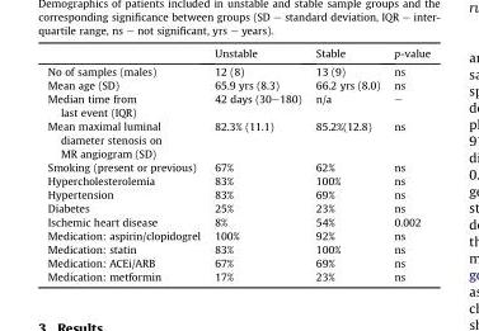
<table><thead><tr><td></td><td>Unstable</td><td>Stable</td><td>p-value</td></tr></thead><tbody><tr><td>No of samples (males)</td><td>12 (8)</td><td>13 (9)</td><td>ns</td></tr><tr><td>Mean age (SD)</td><td>65.9 yrs (8.3)</td><td>66.2 yrs (8.0)</td><td>ns</td></tr><tr><td>Median time from last event (IQR)</td><td>42 days (30–180)</td><td>n/a</td><td>–</td></tr><tr><td>Mean maximal luminal diameter stenosis on MR angiogram (SD)</td><td>82.3% (11.1)</td><td>85.2%(12.8)</td><td>ns</td></tr><tr><td>Smoking (present or previous)</td><td>67%</td><td>62%</td><td>ns</td></tr><tr><td>Hypercholesterolemia</td><td>83%</td><td>100%</td><td>ns</td></tr><tr><td>Hypertension</td><td>83%</td><td>69%</td><td>ns</td></tr><tr><td>Diabetes</td><td>25%</td><td>23%</td><td>ns</td></tr><tr><td>Ischemic heart disease</td><td>8%</td><td>54%</td><td>0.002</td></tr><tr><td>Medication: aspirin/clopidogrel</td><td>100%</td><td>92%</td><td>ns</td></tr><tr><td>Medication: statin</td><td>83%</td><td>100%</td><td>ns</td></tr><tr><td>Medication: ACEi/ARB</td><td>67%</td><td>69%</td><td>ns</td></tr><tr><td>Medication: metformin</td><td>17%</td><td>23%</td><td>ns</td></tr></tbody></table>